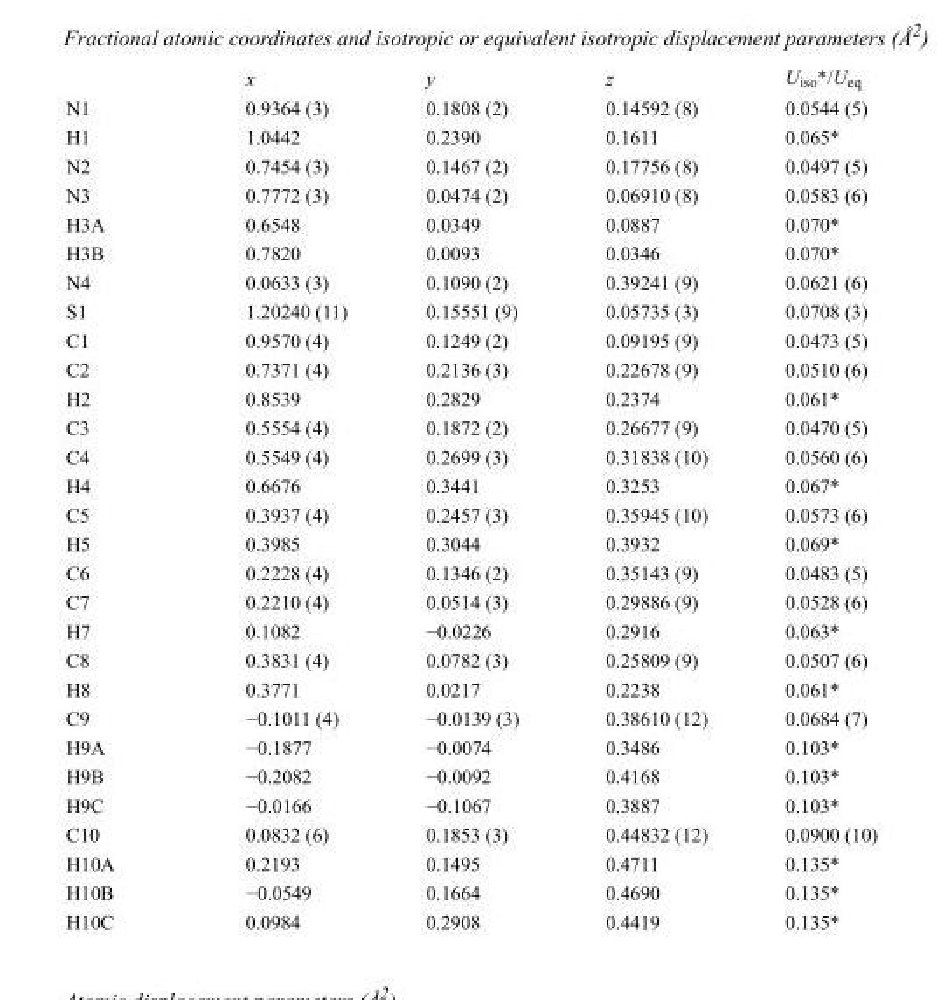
<table><thead><tr><td></td><td>x</td><td>y</td><td>z</td><td>U<sub>iso</sub>*/U<sub>eq</sub></td></tr></thead><tbody><tr><td>N1</td><td>0.9364 (3)</td><td>0.1808 (2)</td><td>0.14592 (8)</td><td>0.0544 (5)</td></tr><tr><td>H1</td><td>1.0442</td><td>0.2390</td><td>0.1611</td><td>0.065*</td></tr><tr><td>N2</td><td>0.7454 (3)</td><td>0.1467 (2)</td><td>0.17756 (8)</td><td>0.0497 (5)</td></tr><tr><td>N3</td><td>0.7772 (3)</td><td>0.0474 (2)</td><td>0.06910 (8)</td><td>0.0583 (6)</td></tr><tr><td>H3A</td><td>0.6548</td><td>0.0349</td><td>0.0887</td><td>0.070*</td></tr><tr><td>H3B</td><td>0.7820</td><td>0.0093</td><td>0.0346</td><td>0.070*</td></tr><tr><td>N4</td><td>0.0633 (3)</td><td>0.1090 (2)</td><td>0.39241 (9)</td><td>0.0621 (6)</td></tr><tr><td>S1</td><td>1.20240 (11)</td><td>0.15551 (9)</td><td>0.05735 (3)</td><td>0.0708 (3)</td></tr><tr><td>C1</td><td>0.9570 (4)</td><td>0.1249 (2)</td><td>0.09195 (9)</td><td>0.0473 (5)</td></tr><tr><td>C2</td><td>0.7371 (4)</td><td>0.2136 (3)</td><td>0.22678 (9)</td><td>0.0510 (6)</td></tr><tr><td>H2</td><td>0.8539</td><td>0.2829</td><td>0.2374</td><td>0.061*</td></tr><tr><td>C3</td><td>0.5554 (4)</td><td>0.1872 (2)</td><td>0.26677 (9)</td><td>0.0470 (5)</td></tr><tr><td>C4</td><td>0.5549 (4)</td><td>0.2699 (3)</td><td>0.31838 (10)</td><td>0.0560 (6)</td></tr><tr><td>H4</td><td>0.6676</td><td>0.3441</td><td>0.3253</td><td>0.067*</td></tr><tr><td>C5</td><td>0.3937 (4)</td><td>0.2457 (3)</td><td>0.35945 (10)</td><td>0.0573 (6)</td></tr><tr><td>H5</td><td>0.3985</td><td>0.3044</td><td>0.3932</td><td>0.069*</td></tr><tr><td>C6</td><td>0.2228 (4)</td><td>0.1346 (2)</td><td>0.35143 (9)</td><td>0.0483 (5)</td></tr><tr><td>C7</td><td>0.2210 (4)</td><td>0.0514 (3)</td><td>0.29886 (9)</td><td>0.0528 (6)</td></tr><tr><td>H7</td><td>0.1082</td><td>−0.0226</td><td>0.2916</td><td>0.063*</td></tr><tr><td>C8</td><td>0.3831 (4)</td><td>0.0782 (3)</td><td>0.25809 (9)</td><td>0.0507 (6)</td></tr><tr><td>H8</td><td>0.3771</td><td>0.0217</td><td>0.2238</td><td>0.061*</td></tr><tr><td>C9</td><td>−0.1011 (4)</td><td>−0.0139 (3)</td><td>0.38610 (12)</td><td>0.0684 (7)</td></tr><tr><td>H9A</td><td>−0.1877</td><td>−0.0074</td><td>0.3486</td><td>0.103*</td></tr><tr><td>H9B</td><td>−0.2082</td><td>−0.0092</td><td>0.4168</td><td>0.103*</td></tr><tr><td>H9C</td><td>−0.0166</td><td>−0.1067</td><td>0.3887</td><td>0.103*</td></tr><tr><td>C10</td><td>0.0832 (6)</td><td>0.1853 (3)</td><td>0.44832 (12)</td><td>0.0900 (10)</td></tr><tr><td>H10A</td><td>0.2193</td><td>0.1495</td><td>0.4711</td><td>0.135*</td></tr><tr><td>H10B</td><td>−0.0549</td><td>0.1664</td><td>0.4690</td><td>0.135*</td></tr><tr><td>H10C</td><td>0.0984</td><td>0.2908</td><td>0.4419</td><td>0.135*</td></tr></tbody></table>